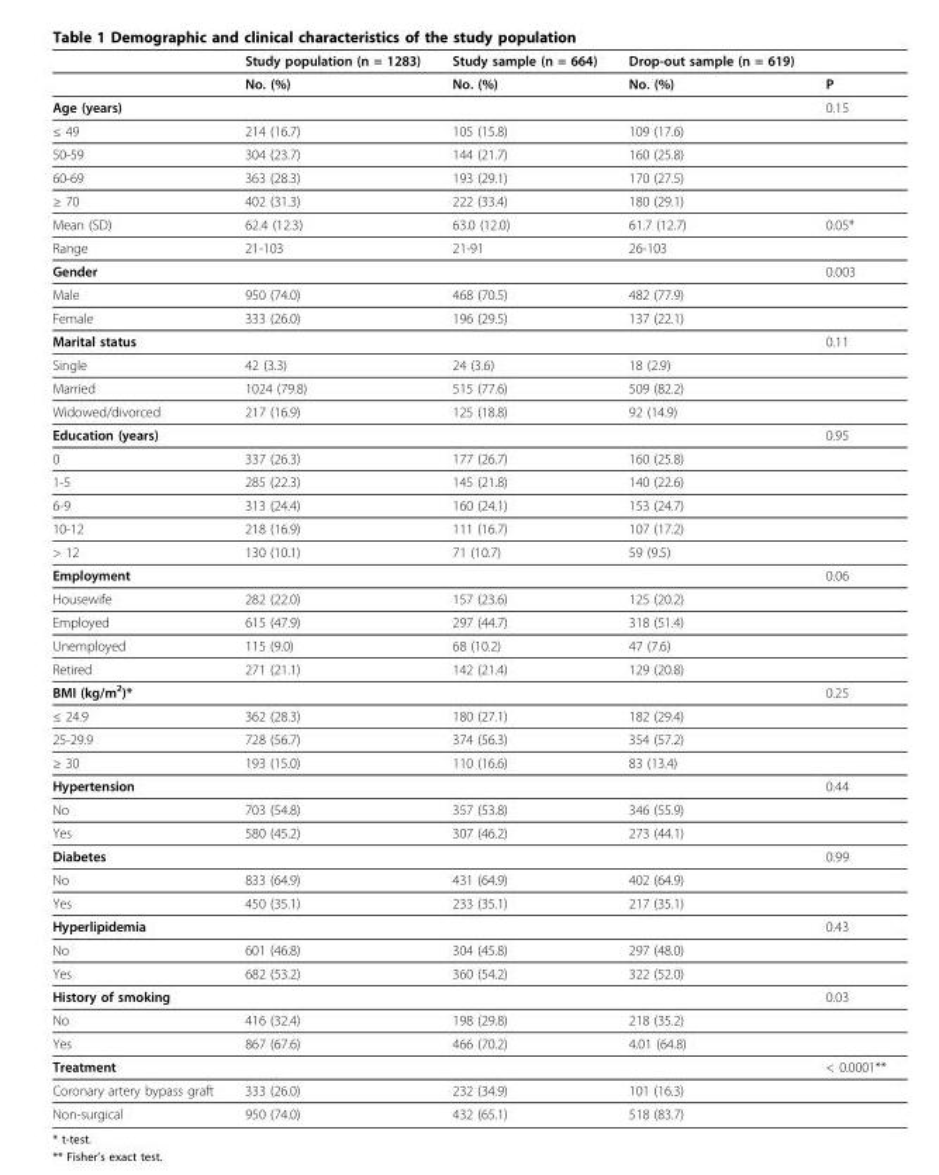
<table><thead><tr><td></td><td>Study population (n = 1283)</td><td>Study sample (n = 664)</td><td>Drop-out sample (n = 619)</td><td></td></tr></thead><tbody><tr><td></td><td>No. (%)</td><td>No. (%)</td><td>No. (%)</td><td>P</td></tr><tr><td>Age (years)</td><td></td><td></td><td></td><td>0.15</td></tr><tr><td>≤ 49</td><td>214 (16.7)</td><td>105 (15.8)</td><td>109 (17.6)</td><td></td></tr><tr><td>50-59</td><td>304 (23.7)</td><td>144 (21.7)</td><td>160 (25.8)</td><td></td></tr><tr><td>60-69</td><td>363 (28.3)</td><td>193 (29.1)</td><td>170 (27.5)</td><td></td></tr><tr><td>≥ 70</td><td>402 (31.3)</td><td>222 (33.4)</td><td>180 (29.1)</td><td></td></tr><tr><td>Mean (SD)</td><td>62.4 (12.3)</td><td>63.0 (12.0)</td><td>61.7 (12.7)</td><td>0.05*</td></tr><tr><td>Range</td><td>21-103</td><td>21-91</td><td>26-103</td><td></td></tr><tr><td>Gender</td><td></td><td></td><td></td><td>0.003</td></tr><tr><td>Male</td><td>950 (74.0)</td><td>468 (70.5)</td><td>482 (77.9)</td><td></td></tr><tr><td>Female</td><td>333 (26.0)</td><td>196 (29.5)</td><td>137 (22.1)</td><td></td></tr><tr><td>Marital status</td><td></td><td></td><td></td><td>0.11</td></tr><tr><td>Single</td><td>42 (3.3)</td><td>24 (3.6)</td><td>18 (2.9)</td><td></td></tr><tr><td>Married</td><td>1024 (79.8)</td><td>515 (77.6)</td><td>509 (82.2)</td><td></td></tr><tr><td>Widowed/divorced</td><td>217 (16.9)</td><td>125 (18.8)</td><td>92 (14.9)</td><td></td></tr><tr><td>Education (years)</td><td></td><td></td><td></td><td>0.95</td></tr><tr><td>0</td><td>337 (26.3)</td><td>177 (26.7)</td><td>160 (25.8)</td><td></td></tr><tr><td>1-5</td><td>285 (22.3)</td><td>145 (21.8)</td><td>140 (22.6)</td><td></td></tr><tr><td>6-9</td><td>313 (24.4)</td><td>160 (24.1)</td><td>153 (24.7)</td><td></td></tr><tr><td>10-12</td><td>218 (16.9)</td><td>111 (16.7)</td><td>107 (17.2)</td><td></td></tr><tr><td>&gt; 12</td><td>130 (10.1)</td><td>71 (10.7)</td><td>59 (9.5)</td><td></td></tr><tr><td>Employment</td><td></td><td></td><td></td><td>0.06</td></tr><tr><td>Housewife</td><td>282 (22.0)</td><td>157 (23.6)</td><td>125 (20.2)</td><td></td></tr><tr><td>Employed</td><td>615 (47.9)</td><td>297 (44.7)</td><td>318 (51.4)</td><td></td></tr><tr><td>Unemployed</td><td>115 (9.0)</td><td>68 (10.2)</td><td>47 (7.6)</td><td></td></tr><tr><td>Retired</td><td>271 (21.1)</td><td>142 (21.4)</td><td>129 (20.8)</td><td></td></tr><tr><td>BMI (kg/m<sup>2</sup>)*</td><td></td><td></td><td></td><td>0.25</td></tr><tr><td>≤ 24.9</td><td>362 (28.3)</td><td>180 (27.1)</td><td>182 (29.4)</td><td></td></tr><tr><td>25-29.9</td><td>728 (56.7)</td><td>374 (56.3)</td><td>354 (57.2)</td><td></td></tr><tr><td>≥ 30</td><td>193 (15.0)</td><td>110 (16.6)</td><td>83 (13.4)</td><td></td></tr><tr><td>Hypertension</td><td></td><td></td><td></td><td>0.44</td></tr><tr><td>No</td><td>703 (54.8)</td><td>357 (53.8)</td><td>346 (55.9)</td><td></td></tr><tr><td>Yes</td><td>580 (45.2)</td><td>307 (46.2)</td><td>273 (44.1)</td><td></td></tr><tr><td>Diabetes</td><td></td><td></td><td></td><td>0.99</td></tr><tr><td>No</td><td>833 (64.9)</td><td>431 (64.9)</td><td>402 (64.9)</td><td></td></tr><tr><td>Yes</td><td>450 (35.1)</td><td>233 (35.1)</td><td>217 (35.1)</td><td></td></tr><tr><td>Hyperlipidemia</td><td></td><td></td><td></td><td>0.43</td></tr><tr><td>No</td><td>601 (46.8)</td><td>304 (45.8)</td><td>297 (48.0)</td><td></td></tr><tr><td>Yes</td><td>682 (53.2)</td><td>360 (54.2)</td><td>322 (52.0)</td><td></td></tr><tr><td>History of smoking</td><td></td><td></td><td></td><td>0.03</td></tr><tr><td>No</td><td>416 (32.4)</td><td>198 (29.8)</td><td>218 (35.2)</td><td></td></tr><tr><td>Yes</td><td>867 (67.6)</td><td>466 (70.2)</td><td>4.01 (64.8)</td><td></td></tr><tr><td>Treatment</td><td></td><td></td><td></td><td>&lt; 0.0001**</td></tr><tr><td>Coronary artery bypass graft</td><td>333 (26.0)</td><td>232 (34.9)</td><td>101 (16.3)</td><td></td></tr><tr><td>Non-surgical</td><td>950 (74.0)</td><td>432 (65.1)</td><td>518 (83.7)</td><td></td></tr></tbody></table>